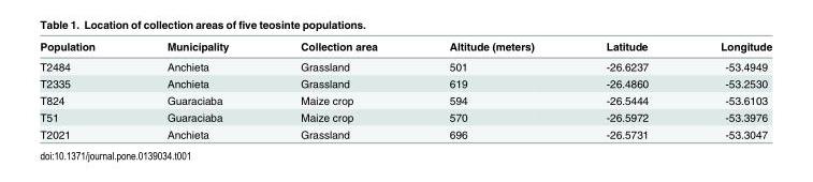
<table><thead><tr><td>Population</td><td>Municipality</td><td>Collection area</td><td>Altitude (meters)</td><td>Latitude</td><td>Longitude</td></tr></thead><tbody><tr><td>T2484</td><td>Anchieta</td><td>Grassland</td><td>501</td><td>-26.6237</td><td>-53.4949</td></tr><tr><td>T2335</td><td>Anchieta</td><td>Grassland</td><td>619</td><td>-26.4860</td><td>-53.2530</td></tr><tr><td>T824</td><td>Guaraciaba</td><td>Maize crop</td><td>594</td><td>-26.5444</td><td>-53.6103</td></tr><tr><td>T51</td><td>Guaraciaba</td><td>Maize crop</td><td>570</td><td>-26.5972</td><td>-53.3976</td></tr><tr><td>T2021</td><td>Anchieta</td><td>Grassland</td><td>696</td><td>-26.5731</td><td>-53.3047</td></tr></tbody></table>